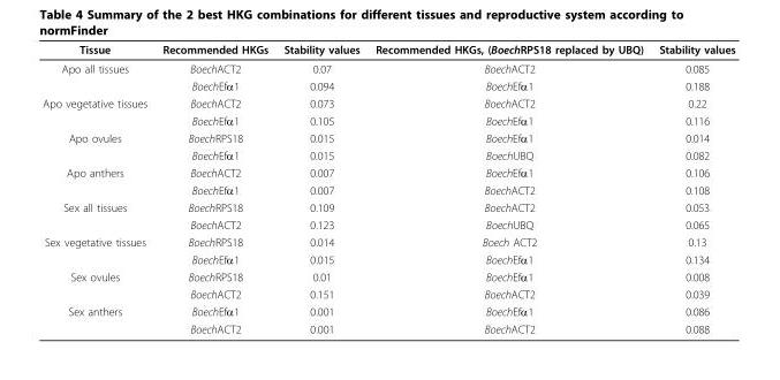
<table><thead><tr><td>Tissue</td><td>Recommended HKGs</td><td>Stability values</td><td>Recommended HKGs, (BoechRPS18 replaced by UBQ)</td><td>Stability values</td></tr></thead><tbody><tr><td rowspan="2">Apo all tissues</td><td>BoechACT2</td><td>0.07</td><td>BoechACT2</td><td>0.085</td></tr><tr><td>BoechEfα1</td><td>0.094</td><td>BoechEfα1</td><td>0.188</td></tr><tr><td rowspan="2">Apo vegetative tissues</td><td>BoechACT2</td><td>0.073</td><td>BoechACT2</td><td>0.22</td></tr><tr><td>BoechEfα1</td><td>0.105</td><td>BoechEfα1</td><td>0.116</td></tr><tr><td rowspan="2">Apo ovules</td><td>BoechRPS18</td><td>0.015</td><td>BoechEfα1</td><td>0.014</td></tr><tr><td>BoechEfα1</td><td>0.015</td><td>BoechUBQ</td><td>0.082</td></tr><tr><td rowspan="2">Apo anthers</td><td>BoechACT2</td><td>0.007</td><td>BoechEfα1</td><td>0.106</td></tr><tr><td>BoechEfα1</td><td>0.007</td><td>BoechACT2</td><td>0.108</td></tr><tr><td rowspan="2">Sex all tissues</td><td>BoechRPS18</td><td>0.109</td><td>BoechACT2</td><td>0.053</td></tr><tr><td>BoechACT2</td><td>0.123</td><td>BoechUBQ</td><td>0.065</td></tr><tr><td rowspan="2">Sex vegetative tissues</td><td>BoechRPS18</td><td>0.014</td><td>Boech ACT2</td><td>0.13</td></tr><tr><td>BoechEfα1</td><td>0.015</td><td>BoechEfα1</td><td>0.134</td></tr><tr><td rowspan="2">Sex ovules</td><td>BoechRPS18</td><td>0.01</td><td>BoechEfα1</td><td>0.008</td></tr><tr><td>BoechACT2</td><td>0.151</td><td>BoechACT2</td><td>0.039</td></tr><tr><td rowspan="2">Sex anthers</td><td>BoechEfα1</td><td>0.001</td><td>BoechEfα1</td><td>0.086</td></tr><tr><td>BoechACT2</td><td>0.001</td><td>BoechACT2</td><td>0.088</td></tr></tbody></table>